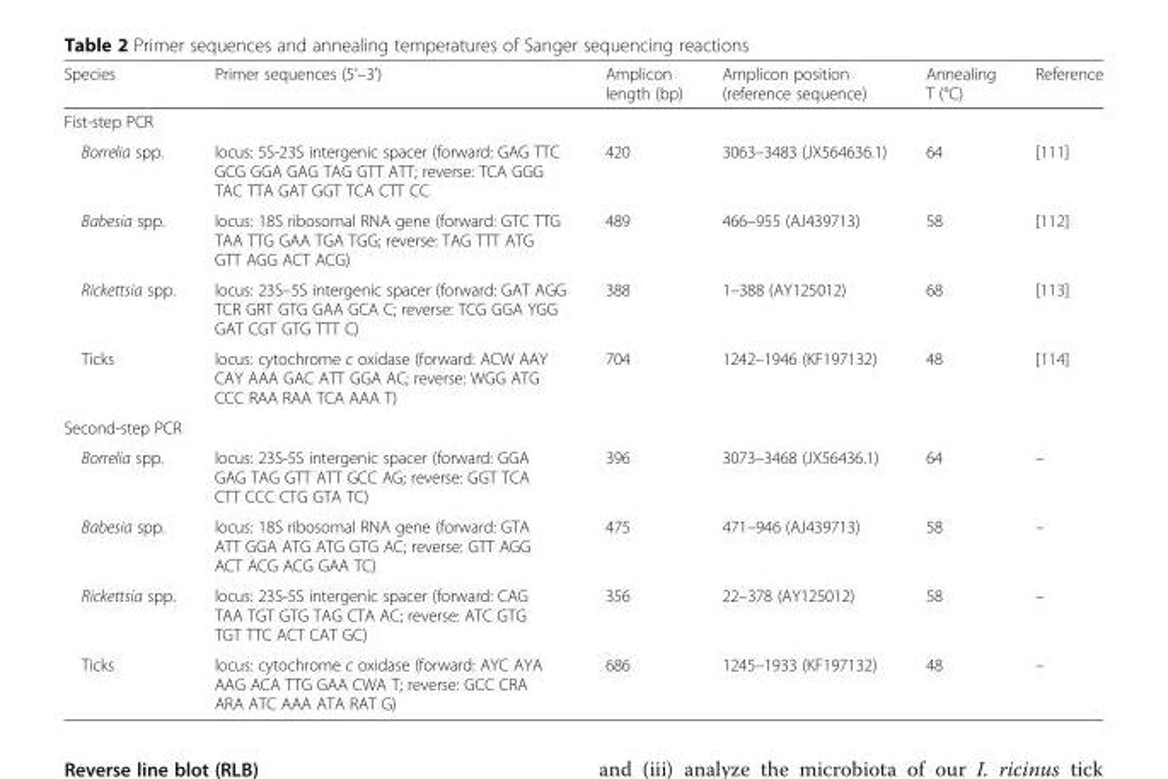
<table><thead><tr><td>Species</td><td>Primer sequences (5&#x27;–3&#x27;)</td><td>Amplicon length (bp)</td><td>Amplicon position (reference sequence)</td><td>Annealing T (°C)</td><td>Reference</td></tr></thead><tbody><tr><td colspan="6">Fist-step PCR</td></tr><tr><td>Borrelia spp.</td><td>locus: 5S-23S intergenic spacer (forward: GAG TTC GCG GGA GAG TAG GTT ATT; reverse: TCA GGG TAC TTA GAT GGT TCA CTT CC</td><td>420</td><td>3063–3483 (JX564636.1)</td><td>64</td><td>[111]</td></tr><tr><td>Babesia spp.</td><td>locus: 18S ribosomal RNA gene (forward: GTC TTG TAA TTG GAA TGA TGG; reverse: TAG TTT ATG GTT AGG ACT ACG)</td><td>489</td><td>466–955 (AJ439713)</td><td>58</td><td>[112]</td></tr><tr><td>Rickettsia spp.</td><td>locus: 23S–5S intergenic spacer (forward: GAT AGG TCR GRT GTG GAA GCA C; reverse: TCG GGA YGG GAT CGT GTG TTT C)</td><td>388</td><td>1–388 (AY125012)</td><td>68</td><td>[113]</td></tr><tr><td>Ticks</td><td>locus: cytochrome c oxidase (forward: ACW AAY CAY AAA GAC ATT GGA AC; reverse: WGG ATG CCC RAA RAA TCA AAA T)</td><td>704</td><td>1242–1946 (KF197132)</td><td>48</td><td>[114]</td></tr><tr><td colspan="6">Second-step PCR</td></tr><tr><td>Borrelia spp.</td><td>locus: 23S-5S intergenic spacer (forward: GGA GAG TAG GTT ATT GCC AG; reverse: GGT TCA CTT CCC CTG GTA TC)</td><td>396</td><td>3073–3468 (JX56436.1)</td><td>64</td><td>–</td></tr><tr><td>Babesia spp.</td><td>locus: 18S ribosomal RNA gene (forward: GTA ATT GGA ATG ATG GTG AC; reverse: GTT AGG ACT ACG ACG GAA TC)</td><td>475</td><td>471–946 (AJ439713)</td><td>58</td><td>–</td></tr><tr><td>Rickettsia spp.</td><td>locus: 23S-5S intergenic spacer (forward: CAG TAA TGT GTG TAG CTA AC; reverse: ATC GTG TGT TTC ACT CAT GC)</td><td>356</td><td>22–378 (AY125012)</td><td>58</td><td>–</td></tr><tr><td>Ticks</td><td>locus: cytochrome c oxidase (forward: AYC AYA AAG ACA TTG GAA CWA T; reverse: GCC CRA ARA ATC AAA ATA RAT G)</td><td>686</td><td>1245–1933 (KF197132)</td><td>48</td><td>–</td></tr></tbody></table>